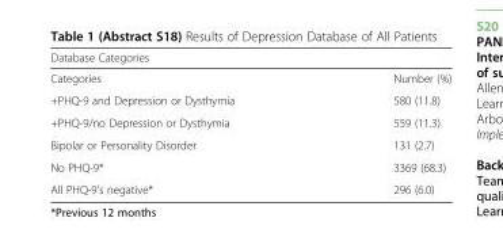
<table><thead><tr><td colspan="2">Database Categories</td></tr><tr><td>Categories</td><td>Number (%)</td></tr></thead><tbody><tr><td>+PHQ-9 and Depression or Dysthymia</td><td>580 (11.8)</td></tr><tr><td>+PHQ-9/no Depression or Dysthymia</td><td>559 (11.3)</td></tr><tr><td>Bipolar or Personality Disorder</td><td>131 (2.7)</td></tr><tr><td>No PHQ-9*</td><td>3369 (68.3)</td></tr><tr><td>All PHQ-9’s negative*</td><td>296 (6.0)</td></tr></tbody></table>